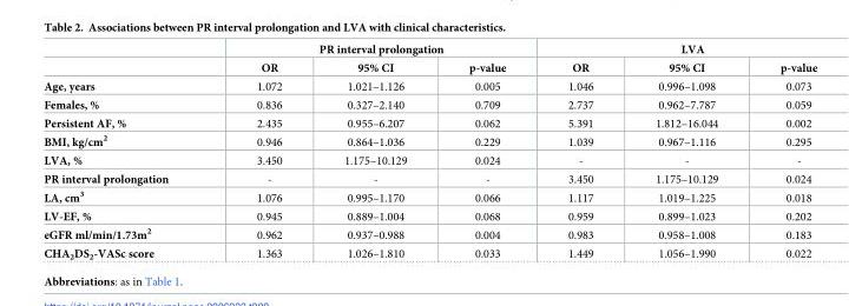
<table><thead><tr><td rowspan="2"></td><td colspan="3">PR interval prolongation</td><td colspan="3">LVA</td></tr><tr><td>OR</td><td>95% CI</td><td>p-value</td><td>OR</td><td>95% CI</td><td>p-value</td></tr></thead><tbody><tr><td>Age, years</td><td>1.072</td><td>1.021–1.126</td><td>0.005</td><td>1.046</td><td>0.996–1.098</td><td>0.073</td></tr><tr><td>Females, %</td><td>0.836</td><td>0.327–2.140</td><td>0.709</td><td>2.737</td><td>0.962–7.787</td><td>0.059</td></tr><tr><td>Persistent AF, %</td><td>2.435</td><td>0.955–6.207</td><td>0.062</td><td>5.391</td><td>1.812–16.044</td><td>0.002</td></tr><tr><td>BMI, kg/cm<sup>2</sup></td><td>0.946</td><td>0.864–1.036</td><td>0.229</td><td>1.039</td><td>0.967–1.116</td><td>0.295</td></tr><tr><td>LVA, %</td><td>3.450</td><td>1.175–10.129</td><td>0.024</td><td>-</td><td>-</td><td>-</td></tr><tr><td>PR interval prolongation</td><td>-</td><td>-</td><td>-</td><td>3.450</td><td>1.175–10.129</td><td>0.024</td></tr><tr><td>LA, cm<sup>3</sup></td><td>1.076</td><td>0.995–1.170</td><td>0.066</td><td>1.117</td><td>1.019–1.225</td><td>0.018</td></tr><tr><td>LV-EF, %</td><td>0.945</td><td>0.889–1.004</td><td>0.068</td><td>0.959</td><td>0.899–1.023</td><td>0.202</td></tr><tr><td>eGFR ml/min/1.73m<sup>2</sup></td><td>0.962</td><td>0.937–0.988</td><td>0.004</td><td>0.983</td><td>0.958–1.008</td><td>0.183</td></tr><tr><td>CHA<sub>2</sub>DS<sub>2</sub>-VASc score</td><td>1.363</td><td>1.026–1.810</td><td>0.033</td><td>1.449</td><td>1.056–1.990</td><td>0.022</td></tr></tbody></table>